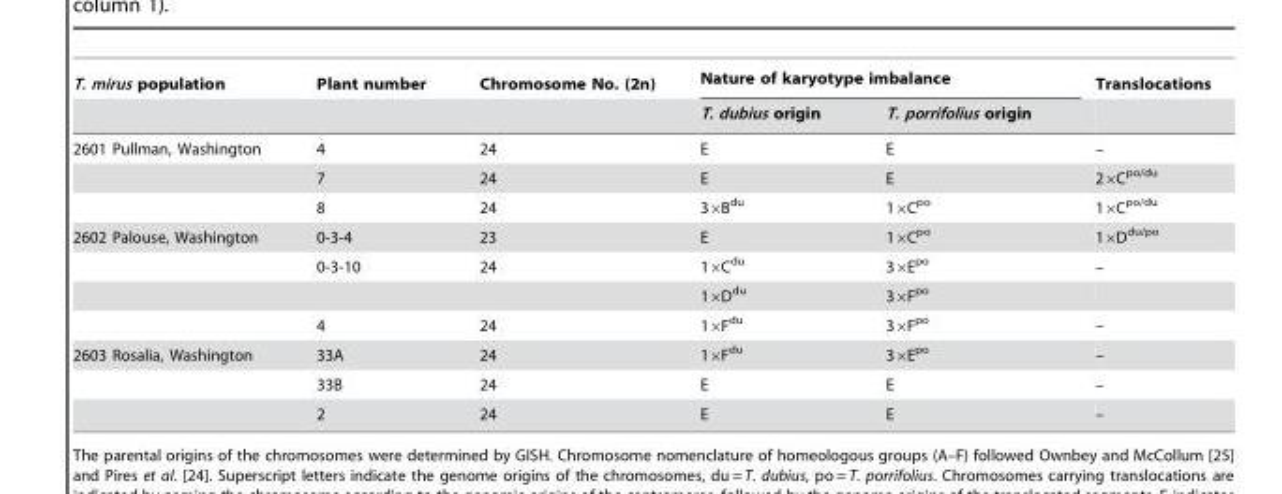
<table><thead><tr><td rowspan="2">T. mirus population</td><td rowspan="2">Plant number</td><td rowspan="2">Chromosome No. (2n)</td><td colspan="2">Nature of karyotype imbalance</td><td rowspan="2">Translocations</td></tr><tr><td>T. dubius origin</td><td>T. porrifolius origin</td></tr></thead><tbody><tr><td rowspan="3">2601 Pullman, Washington</td><td>4</td><td>24</td><td>E</td><td>E</td><td>–</td></tr><tr><td>7</td><td>24</td><td>E</td><td>E</td><td>2×C<sup>po/du</sup></td></tr><tr><td>8</td><td>24</td><td>3×B<sup>du</sup></td><td>1×C<sup>po</sup></td><td>1×C<sup>po/du</sup></td></tr><tr><td rowspan="4">2602 Palouse, Washington</td><td>0-3-4</td><td>23</td><td>E</td><td>1×C<sup>po</sup></td><td>1×D<sup>du/po</sup></td></tr><tr><td>0-3-10</td><td>24</td><td>1×C<sup>du</sup></td><td>3×E<sup>po</sup></td><td>–</td></tr><tr><td></td><td></td><td>1×D<sup>du</sup></td><td>3×F<sup>po</sup></td><td></td></tr><tr><td>4</td><td>24</td><td>1×F<sup>du</sup></td><td>3×F<sup>po</sup></td><td>–</td></tr><tr><td rowspan="3">2603 Rosalia, Washington</td><td>33A</td><td>24</td><td>1×F<sup>du</sup></td><td>3×E<sup>po</sup></td><td>–</td></tr><tr><td>33B</td><td>24</td><td>E</td><td>E</td><td>–</td></tr><tr><td>2</td><td>24</td><td>E</td><td>E</td><td>–</td></tr></tbody></table>